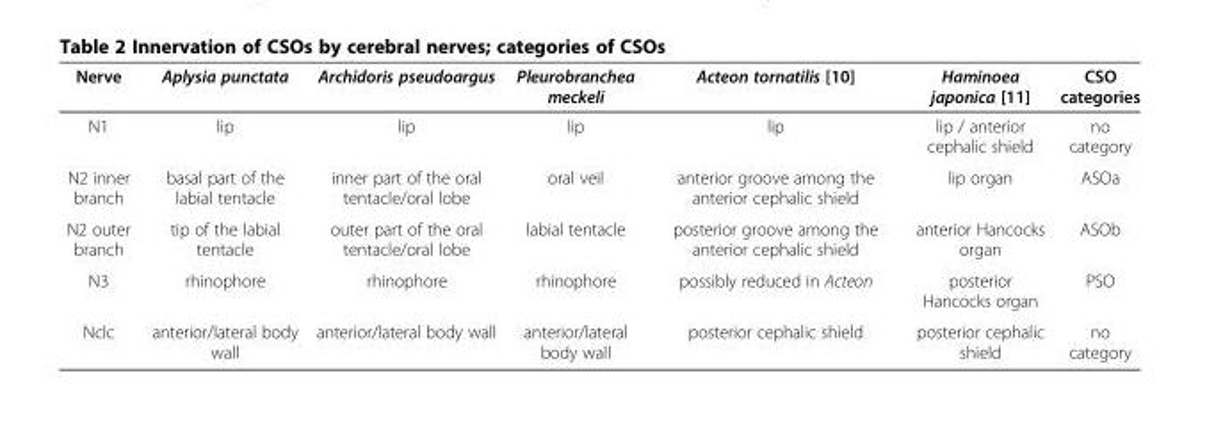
<table><thead><tr><td>Nerve</td><td>Aplysia punctata</td><td>Archidoris pseudoargus</td><td>Pleurobranchea meckeli</td><td>Acteon tornatilis [10]</td><td>Haminoea japonica [11]</td><td>CSO categories</td></tr></thead><tbody><tr><td>N1</td><td>lip</td><td>lip</td><td>lip</td><td>lip</td><td>lip / anterior cephalic shield</td><td>no category</td></tr><tr><td>N2 inner branch</td><td>basal part of the labial tentacle</td><td>inner part of the oral tentacle/oral lobe</td><td>oral veil</td><td>anterior groove among the anterior cephalic shield</td><td>lip organ</td><td>ASOa</td></tr><tr><td>N2 outer branch</td><td>tip of the labial tentacle</td><td>outer part of the oral tentacle/oral lobe</td><td>labial tentacle</td><td>posterior groove among the anterior cephalic shield</td><td>anterior Hancocks organ</td><td>ASOb</td></tr><tr><td>N3</td><td>rhinophore</td><td>rhinophore</td><td>rhinophore</td><td>possibly reduced in Acteon</td><td>posterior Hancocks organ</td><td>PSO</td></tr><tr><td>Nclc</td><td>anterior/lateral body wall</td><td>anterior/lateral body wall</td><td>anterior/lateral body wall</td><td>posterior cephalic shield</td><td>posterior cephalic shield</td><td>no category</td></tr></tbody></table>